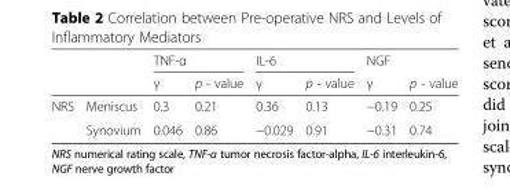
<table><thead><tr><td rowspan="2"></td><td rowspan="2"></td><td colspan="2">TNF-α</td><td colspan="2">IL-6</td><td rowspan="2">NGF γ</td><td rowspan="2">p - value</td></tr><tr><td>γ</td><td>p - value</td><td>γ</td><td>p - value</td></tr></thead><tbody><tr><td rowspan="2">NRS</td><td>Meniscus</td><td>0.3</td><td>0.21</td><td>0.36</td><td>0.13</td><td>−0.19</td><td>0.25</td></tr><tr><td>Synovium</td><td>0.046</td><td>0.86</td><td>−0.029</td><td>0.91</td><td>−0.31</td><td>0.74</td></tr></tbody></table>